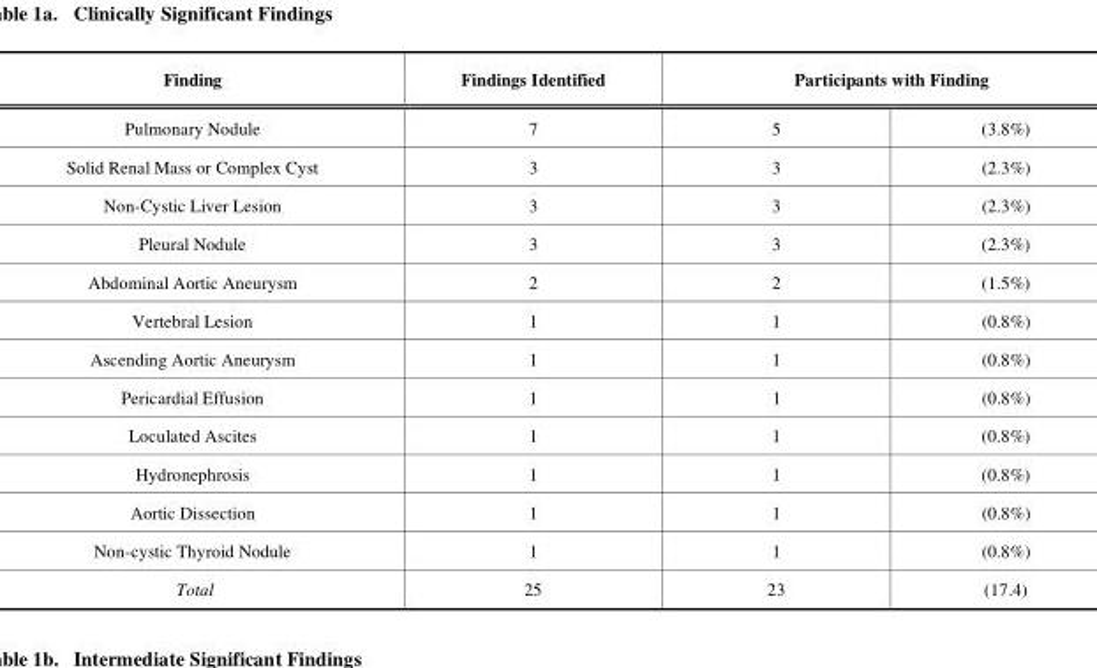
<table><tbody><tr><td>Finding</td><td>Findings Identified</td><td colspan="2">Participants with Finding</td></tr><tr><td>Pulmonary Nodule</td><td>7</td><td>5</td><td>(3.8%)</td></tr><tr><td>Solid Renal Mass or Complex Cyst</td><td>3</td><td>3</td><td>(2.3%)</td></tr><tr><td>Non-Cystic Liver Lesion</td><td>3</td><td>3</td><td>(2.3%)</td></tr><tr><td>Pleural Nodule</td><td>3</td><td>3</td><td>(2.3%)</td></tr><tr><td>Abdominal Aortic Aneurysm</td><td>2</td><td>2</td><td>(1.5%)</td></tr><tr><td>Vertebral Lesion</td><td>1</td><td>1</td><td>(0.8%)</td></tr><tr><td>Ascending Aortic Aneurysm</td><td>1</td><td>1</td><td>(0.8%)</td></tr><tr><td>Pericardial Effusion</td><td>1</td><td>1</td><td>(0.8%)</td></tr><tr><td>Loculated Ascites</td><td>1</td><td>1</td><td>(0.8%)</td></tr><tr><td>Hydronephrosis</td><td>1</td><td>1</td><td>(0.8%)</td></tr><tr><td>Aortic Dissection</td><td>1</td><td>1</td><td>(0.8%)</td></tr><tr><td>Non-cystic Thyroid Nodule</td><td>1</td><td>1</td><td>(0.8%)</td></tr><tr><td>Total</td><td>25</td><td>23</td><td>(17.4)</td></tr></tbody></table>